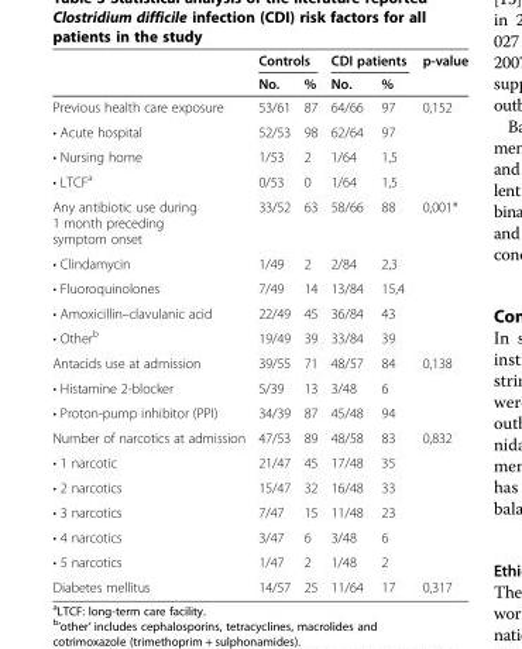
<table><thead><tr><td rowspan="2"></td><td colspan="2">Controls</td><td colspan="2">CDI patients</td><td rowspan="2">p-value</td></tr><tr><td>No.</td><td>%</td><td>No.</td><td>%</td></tr></thead><tbody><tr><td>Previous health care exposure</td><td>53/61</td><td>87</td><td>64/66</td><td>97</td><td>0,152</td></tr><tr><td>• Acute hospital</td><td>52/53</td><td>98</td><td>62/64</td><td>97</td><td></td></tr><tr><td>• Nursing home</td><td>1/53</td><td>2</td><td>1/64</td><td>1,5</td><td></td></tr><tr><td>• LTCF<sup>a</sup></td><td>0/53</td><td>0</td><td>1/64</td><td>1,5</td><td></td></tr><tr><td>Any antibiotic use during 1 month preceding symptom onset</td><td>33/52</td><td>63</td><td>58/66</td><td>88</td><td>0,001*</td></tr><tr><td>• Clindamycin</td><td>1/49</td><td>2</td><td>2/84</td><td>2,3</td><td></td></tr><tr><td>• Fluoroquinolones</td><td>7/49</td><td>14</td><td>13/84</td><td>15,4</td><td></td></tr><tr><td>• Amoxicillin–clavulanic acid</td><td>22/49</td><td>45</td><td>36/84</td><td>43</td><td></td></tr><tr><td>• Other<sup>b</sup></td><td>19/49</td><td>39</td><td>33/84</td><td>39</td><td></td></tr><tr><td>Antacids use at admission</td><td>39/55</td><td>71</td><td>48/57</td><td>84</td><td>0,138</td></tr><tr><td>• Histamine 2-blocker</td><td>5/39</td><td>13</td><td>3/48</td><td>6</td><td></td></tr><tr><td>• Proton-pump inhibitor (PPI)</td><td>34/39</td><td>87</td><td>45/48</td><td>94</td><td></td></tr><tr><td>Number of narcotics at admission</td><td>47/53</td><td>89</td><td>48/58</td><td>83</td><td>0,832</td></tr><tr><td>• 1 narcotic</td><td>21/47</td><td>45</td><td>17/48</td><td>35</td><td></td></tr><tr><td>• 2 narcotics</td><td>15/47</td><td>32</td><td>16/48</td><td>33</td><td></td></tr><tr><td>• 3 narcotics</td><td>7/47</td><td>15</td><td>11/48</td><td>23</td><td></td></tr><tr><td>• 4 narcotics</td><td>3/47</td><td>6</td><td>3/48</td><td>6</td><td></td></tr><tr><td>• 5 narcotics</td><td>1/47</td><td>2</td><td>1/48</td><td>2</td><td></td></tr><tr><td>Diabetes mellitus</td><td>14/57</td><td>25</td><td>11/64</td><td>17</td><td>0,317</td></tr></tbody></table>